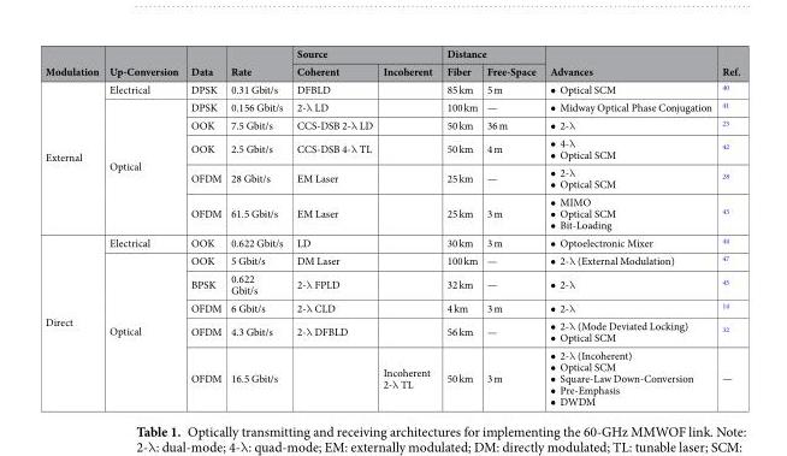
<table><thead><tr><td rowspan="2">Modulation</td><td rowspan="2">Up-Conversion</td><td rowspan="2">Data</td><td rowspan="2">Rate</td><td colspan="2">Source</td><td colspan="2">Distance</td><td rowspan="2">Advances</td><td rowspan="2">Ref.</td></tr><tr><td>Coherent</td><td>Incoherent</td><td>Fiber</td><td>Free-Space</td></tr></thead><tbody><tr><td rowspan="6">External</td><td>Electrical</td><td>DPSK</td><td>0.31 Gbit/s</td><td>DFBLD</td><td></td><td>85 km</td><td>5 m</td><td>• Optical SCM</td><td><sup>40</sup></td></tr><tr><td rowspan="5">Optical</td><td>DPSK</td><td>0.156 Gbit/s</td><td>2-λ LD</td><td></td><td>100 km</td><td>—</td><td>• Midway Optical Phase Conjugation</td><td><sup>41</sup></td></tr><tr><td>OOK</td><td>7.5 Gbit/s</td><td>CCS-DSB 2-λ LD</td><td></td><td>50 km</td><td>36 m</td><td>• 2-λ</td><td><sup>23</sup></td></tr><tr><td>OOK</td><td>2.5 Gbit/s</td><td>CCS-DSB 4-λ TL</td><td></td><td>50 km</td><td>4 m</td><td>• 4-λ • Optical SCM</td><td><sup>42</sup></td></tr><tr><td>OFDM</td><td>28 Gbit/s</td><td>EM Laser</td><td></td><td>25 km</td><td>—</td><td>• 2-λ • Optical SCM</td><td><sup>28</sup></td></tr><tr><td>OFDM</td><td>61.5 Gbit/s</td><td>EM Laser</td><td></td><td>25 km</td><td>3 m</td><td>• MIMO • Optical SCM • Bit-Loading</td><td><sup>43</sup></td></tr><tr><td rowspan="6">Direct</td><td>Electrical</td><td>OOK</td><td>0.622 Gbit/s</td><td>LD</td><td></td><td>30 km</td><td>3 m</td><td>• Optoelectronic Mixer</td><td><sup>44</sup></td></tr><tr><td rowspan="5">Optical</td><td>OOK</td><td>5 Gbit/s</td><td>DM Laser</td><td></td><td>100 km</td><td>—</td><td>• 2-λ (External Modulation)</td><td><sup>47</sup></td></tr><tr><td>BPSK</td><td>0.622 Gbit/s</td><td>2-λ FPLD</td><td></td><td>32 km</td><td>—</td><td>• 2-λ</td><td><sup>45</sup></td></tr><tr><td>OFDM</td><td>6 Gbit/s</td><td>2-λ CLD</td><td></td><td>4 km</td><td>3 m</td><td>• 2-λ</td><td><sup>14</sup></td></tr><tr><td>OFDM</td><td>4.3 Gbit/s</td><td>2-λ DFBLD</td><td></td><td>56 km</td><td>—</td><td>• 2-λ (Mode Deviated Locking) • Optical SCM</td><td><sup>32</sup></td></tr><tr><td>OFDM</td><td>16.5 Gbit/s</td><td></td><td>Incoherent 2-λ TL</td><td>50 km</td><td>3 m</td><td>• 2-λ (Incoherent) • Optical SCM • Square-Law Down-Conversion • Pre-Emphasis • DWDM</td><td>—</td></tr></tbody></table>